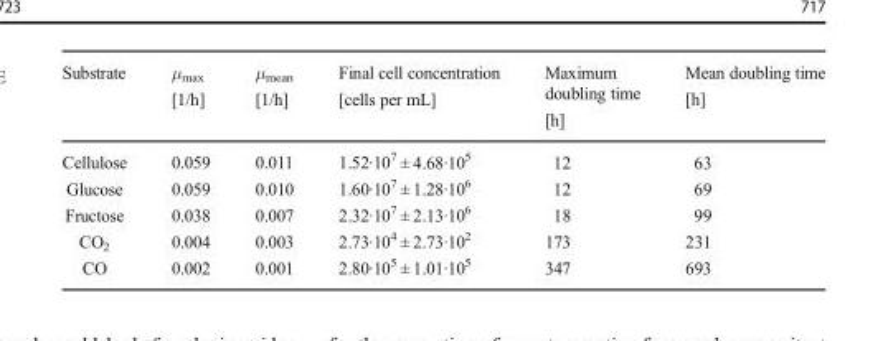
<table><thead><tr><td>Substrate</td><td>μ<sub>max</sub> [1/h]</td><td>μ<sub>mean</sub> [1/h]</td><td>Final cell concentration [cells per mL]</td><td>Maximum doubling time [h]</td><td>Mean doubling time [h]</td></tr></thead><tbody><tr><td>Cellulose</td><td>0.059</td><td>0.011</td><td>1.52·10<sup>7</sup> ± 4.68·10<sup>5</sup></td><td>12</td><td>63</td></tr><tr><td>Glucose</td><td>0.059</td><td>0.010</td><td>1.60·10<sup>7</sup> ± 1.28·10<sup>6</sup></td><td>12</td><td>69</td></tr><tr><td>Fructose</td><td>0.038</td><td>0.007</td><td>2.32·10<sup>7</sup> ± 2.13·10<sup>6</sup></td><td>18</td><td>99</td></tr><tr><td>CO<sub>2</sub></td><td>0.004</td><td>0.003</td><td>2.73·10<sup>4</sup> ± 2.73·10<sup>2</sup></td><td>173</td><td>231</td></tr><tr><td>CO</td><td>0.002</td><td>0.001</td><td>2.80·10<sup>5</sup> ± 1.01·10<sup>5</sup></td><td>347</td><td>693</td></tr></tbody></table>